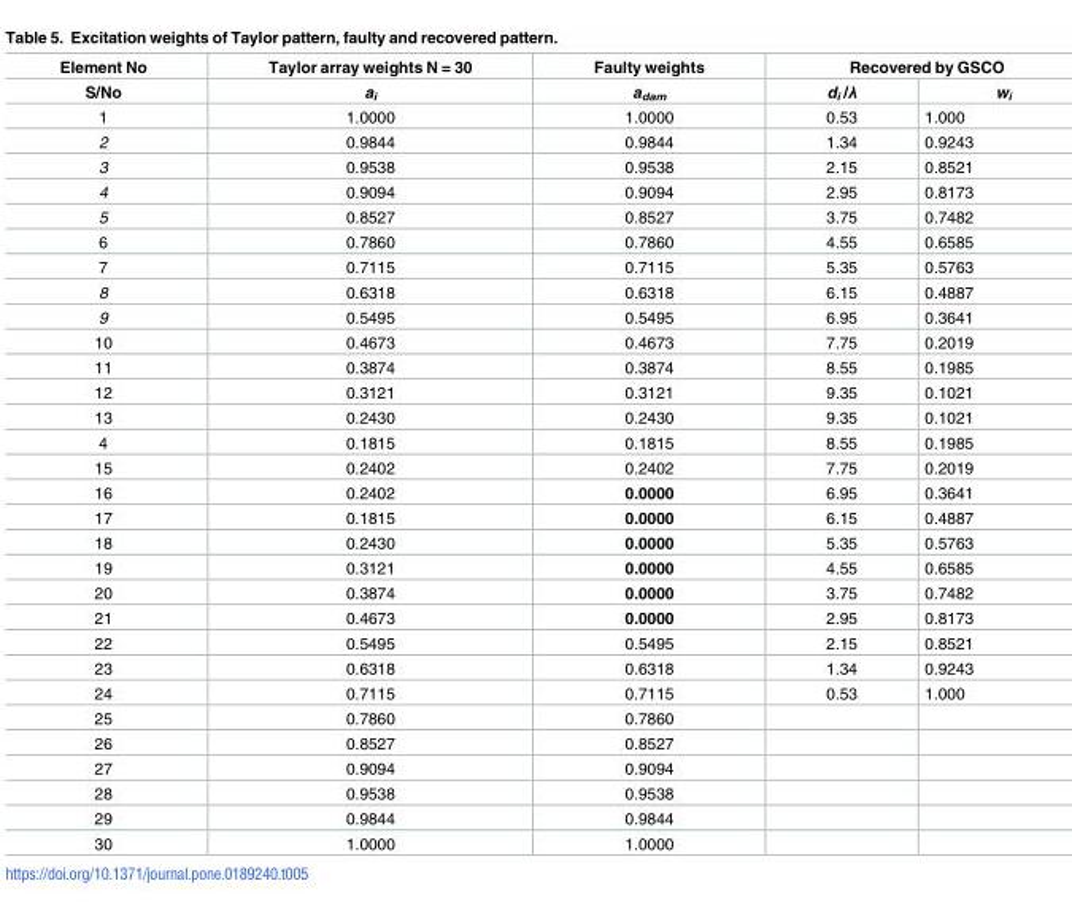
<table><thead><tr><td rowspan="2">Element No S/No</td><td rowspan="2">Taylor array weights N = 30 a<sub>i</sub></td><td rowspan="2">Faulty weights a<sub>dam</sub></td><td colspan="2">Recovered by GSCO</td></tr><tr><td>d<sub>i</sub> /λ</td><td>w<sub>i</sub></td></tr></thead><tbody><tr><td>1</td><td>1.0000</td><td>1.0000</td><td>0.53</td><td>1.000</td></tr><tr><td>2</td><td>0.9844</td><td>0.9844</td><td>1.34</td><td>0.9243</td></tr><tr><td>3</td><td>0.9538</td><td>0.9538</td><td>2.15</td><td>0.8521</td></tr><tr><td>4</td><td>0.9094</td><td>0.9094</td><td>2.95</td><td>0.8173</td></tr><tr><td>5</td><td>0.8527</td><td>0.8527</td><td>3.75</td><td>0.7482</td></tr><tr><td>6</td><td>0.7860</td><td>0.7860</td><td>4.55</td><td>0.6585</td></tr><tr><td>7</td><td>0.7115</td><td>0.7115</td><td>5.35</td><td>0.5763</td></tr><tr><td>8</td><td>0.6318</td><td>0.6318</td><td>6.15</td><td>0.4887</td></tr><tr><td>9</td><td>0.5495</td><td>0.5495</td><td>6.95</td><td>0.3641</td></tr><tr><td>10</td><td>0.4673</td><td>0.4673</td><td>7.75</td><td>0.2019</td></tr><tr><td>11</td><td>0.3874</td><td>0.3874</td><td>8.55</td><td>0.1985</td></tr><tr><td>12</td><td>0.3121</td><td>0.3121</td><td>9.35</td><td>0.1021</td></tr><tr><td>13</td><td>0.2430</td><td>0.2430</td><td>9.35</td><td>0.1021</td></tr><tr><td>4</td><td>0.1815</td><td>0.1815</td><td>8.55</td><td>0.1985</td></tr><tr><td>15</td><td>0.2402</td><td>0.2402</td><td>7.75</td><td>0.2019</td></tr><tr><td>16</td><td>0.2402</td><td>0.0000</td><td>6.95</td><td>0.3641</td></tr><tr><td>17</td><td>0.1815</td><td>0.0000</td><td>6.15</td><td>0.4887</td></tr><tr><td>18</td><td>0.2430</td><td>0.0000</td><td>5.35</td><td>0.5763</td></tr><tr><td>19</td><td>0.3121</td><td>0.0000</td><td>4.55</td><td>0.6585</td></tr><tr><td>20</td><td>0.3874</td><td>0.0000</td><td>3.75</td><td>0.7482</td></tr><tr><td>21</td><td>0.4673</td><td>0.0000</td><td>2.95</td><td>0.8173</td></tr><tr><td>22</td><td>0.5495</td><td>0.5495</td><td>2.15</td><td>0.8521</td></tr><tr><td>23</td><td>0.6318</td><td>0.6318</td><td>1.34</td><td>0.9243</td></tr><tr><td>24</td><td>0.7115</td><td>0.7115</td><td>0.53</td><td>1.000</td></tr><tr><td>25</td><td>0.7860</td><td>0.7860</td><td></td><td></td></tr><tr><td>26</td><td>0.8527</td><td>0.8527</td><td></td><td></td></tr><tr><td>27</td><td>0.9094</td><td>0.9094</td><td></td><td></td></tr><tr><td>28</td><td>0.9538</td><td>0.9538</td><td></td><td></td></tr><tr><td>29</td><td>0.9844</td><td>0.9844</td><td></td><td></td></tr><tr><td>30</td><td>1.0000</td><td>1.0000</td><td></td><td></td></tr></tbody></table>